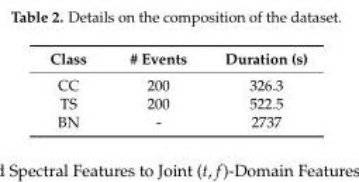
<table><thead><tr><td>Class</td><td># Events</td><td>Duration (s)</td></tr></thead><tbody><tr><td>CC</td><td>200</td><td>326.3</td></tr><tr><td>TS</td><td>200</td><td>522.5</td></tr><tr><td>BN</td><td>-</td><td>2737</td></tr></tbody></table>